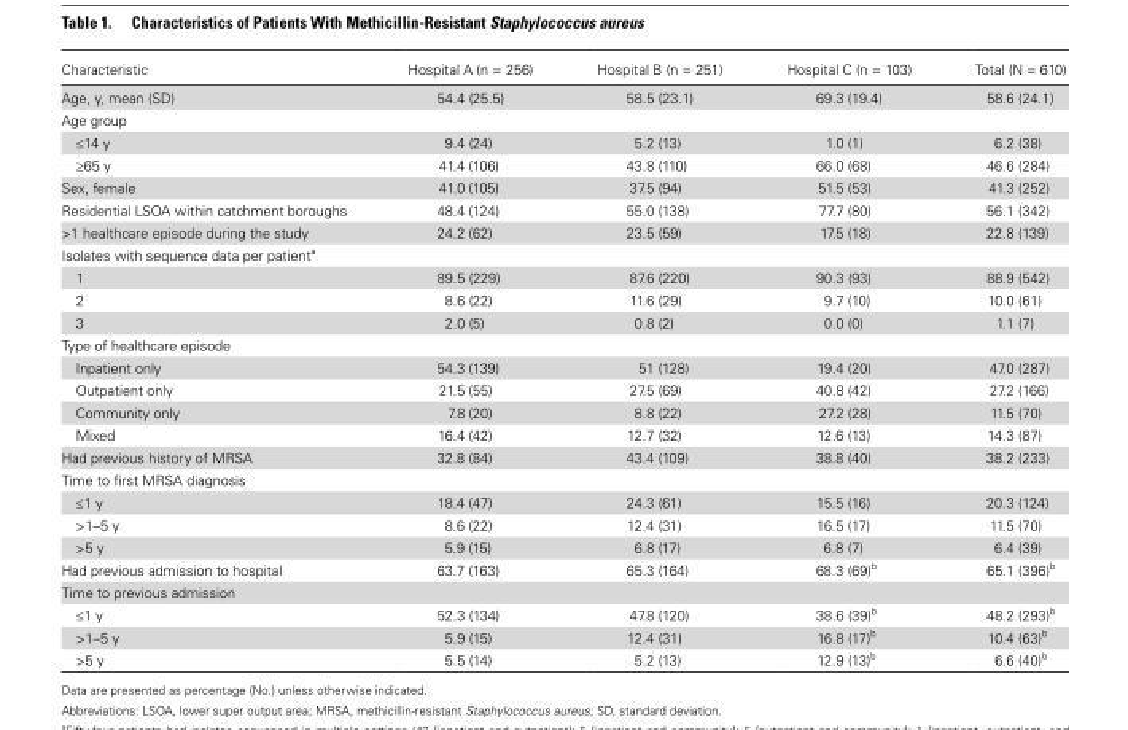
<table><thead><tr><td>Characteristic</td><td>Hospital A (n = 256)</td><td>Hospital B (n = 251)</td><td>Hospital C (n = 103)</td><td>Total (N = 610)</td></tr></thead><tbody><tr><td>Age, y, mean (SD)</td><td>54.4 (25.5)</td><td>58.5 (23.1)</td><td>69.3 (19.4)</td><td>58.6 (24.1)</td></tr><tr><td colspan="5">Age group</td></tr><tr><td>≤14 y</td><td>9.4 (24)</td><td>5.2 (13)</td><td>1.0 (1)</td><td>6.2 (38)</td></tr><tr><td>≥65 y</td><td>41.4 (106)</td><td>43.8 (110)</td><td>66.0 (68)</td><td>46.6 (284)</td></tr><tr><td>Sex, female</td><td>41.0 (105)</td><td>37.5 (94)</td><td>51.5 (53)</td><td>41.3 (252)</td></tr><tr><td>Residential LSOA within catchment boroughs</td><td>48.4 (124)</td><td>55.0 (138)</td><td>77.7 (80)</td><td>56.1 (342)</td></tr><tr><td>&gt;1 healthcare episode during the study</td><td>24.2 (62)</td><td>23.5 (59)</td><td>17.5 (18)</td><td>22.8 (139)</td></tr><tr><td colspan="5">Isolates with sequence data per patient<sup>a</sup></td></tr><tr><td>1</td><td>89.5 (229)</td><td>87.6 (220)</td><td>90.3 (93)</td><td>88.9 (542)</td></tr><tr><td>2</td><td>8.6 (22)</td><td>11.6 (29)</td><td>9.7 (10)</td><td>10.0 (61)</td></tr><tr><td>3</td><td>2.0 (5)</td><td>0.8 (2)</td><td>0.0 (0)</td><td>1.1 (7)</td></tr><tr><td colspan="5">Type of healthcare episode</td></tr><tr><td>Inpatient only</td><td>54.3 (139)</td><td>51 (128)</td><td>19.4 (20)</td><td>47.0 (287)</td></tr><tr><td>Outpatient only</td><td>21.5 (55)</td><td>27.5 (69)</td><td>40.8 (42)</td><td>27.2 (166)</td></tr><tr><td>Community only</td><td>7.8 (20)</td><td>8.8 (22)</td><td>27.2 (28)</td><td>11.5 (70)</td></tr><tr><td>Mixed</td><td>16.4 (42)</td><td>12.7 (32)</td><td>12.6 (13)</td><td>14.3 (87)</td></tr><tr><td>Had previous history of MRSA</td><td>32.8 (84)</td><td>43.4 (109)</td><td>38.8 (40)</td><td>38.2 (233)</td></tr><tr><td colspan="5">Time to first MRSA diagnosis</td></tr><tr><td>≤1 y</td><td>18.4 (47)</td><td>24.3 (61)</td><td>15.5 (16)</td><td>20.3 (124)</td></tr><tr><td>&gt;1–5 y</td><td>8.6 (22)</td><td>12.4 (31)</td><td>16.5 (17)</td><td>11.5 (70)</td></tr><tr><td>&gt;5 y</td><td>5.9 (15)</td><td>6.8 (17)</td><td>6.8 (7)</td><td>6.4 (39)</td></tr><tr><td>Had previous admission to hospital</td><td>63.7 (163)</td><td>65.3 (164)</td><td>68.3 (69)<sup>b</sup></td><td>65.1 (396)<sup>b</sup></td></tr><tr><td colspan="5">Time to previous admission</td></tr><tr><td>≤1 y</td><td>52.3 (134)</td><td>47.8 (120)</td><td>38.6 (39)<sup>b</sup></td><td>48.2 (293)<sup>b</sup></td></tr><tr><td>&gt;1–5 y</td><td>5.9 (15)</td><td>12.4 (31)</td><td>16.8 (17)<sup>b</sup></td><td>10.4 (63)<sup>b</sup></td></tr><tr><td>&gt;5 y</td><td>5.5 (14)</td><td>5.2 (13)</td><td>12.9 (13)<sup>b</sup></td><td>6.6 (40)<sup>b</sup></td></tr></tbody></table>